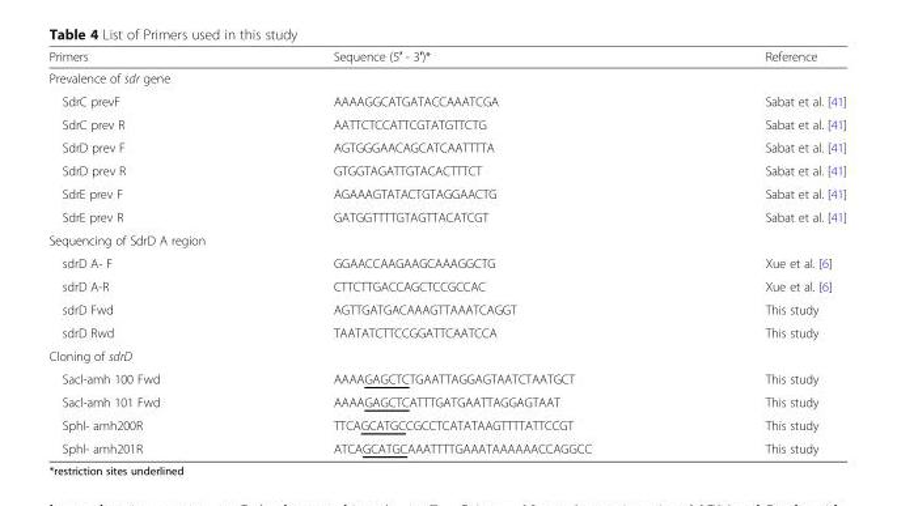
<table><thead><tr><td>Primers</td><td>Sequence (5′ - 3′)*</td><td>Reference</td></tr></thead><tbody><tr><td colspan="3">Prevalence of sdr gene</td></tr><tr><td>SdrC prevF</td><td>AAAAGGCATGATACCAAATCGA</td><td>Sabat et al. [41]</td></tr><tr><td>SdrC prev R</td><td>AATTCTCCATTCGTATGTTCTG</td><td>Sabat et al. [41]</td></tr><tr><td>SdrD prev F</td><td>AGTGGGAACAGCATCAATTTTA</td><td>Sabat et al. [41]</td></tr><tr><td>SdrD prev R</td><td>GTGGTAGATTGTACACTTTCT</td><td>Sabat et al. [41]</td></tr><tr><td>SdrE prev F</td><td>AGAAAGTATACTGTAGGAACTG</td><td>Sabat et al. [41]</td></tr><tr><td>SdrE prev R</td><td>GATGGTTTTGTAGTTACATCGT</td><td>Sabat et al. [41]</td></tr><tr><td colspan="3">Sequencing of SdrD A region</td></tr><tr><td>sdrD A- F</td><td>GGAACCAAGAAGCAAAGGCTG</td><td>Xue et al. [6]</td></tr><tr><td>sdrD A-R</td><td>CTTCTTGACCAGCTCCGCCAC</td><td>Xue et al. [6]</td></tr><tr><td>sdrD Fwd</td><td>AGTTGATGACAAAGTTAAATCAGGT</td><td>This study</td></tr><tr><td>sdrD Rwd</td><td>TAATATCTTCCGGATTCAATCCA</td><td>This study</td></tr><tr><td colspan="3">Cloning of sdrD</td></tr><tr><td>Sacl-amh 100 Fwd</td><td>AAAAGAGCTCTGAATTAGGAGTAATCTAATGCT</td><td>This study</td></tr><tr><td>Sacl-amh 101 Fwd</td><td>AAAAGAGCTCATTTGATGAATTAGGAGTAAT</td><td>This study</td></tr><tr><td>Sphl- amh200R</td><td>TTCAGCATGCCGCCTCATATAAGTTTTATTCCGT</td><td>This study</td></tr><tr><td>Sphl- amh201R</td><td>ATCAGCATGCAAATTTTGAAATAAAAAACCAGGCC</td><td>This study</td></tr></tbody></table>